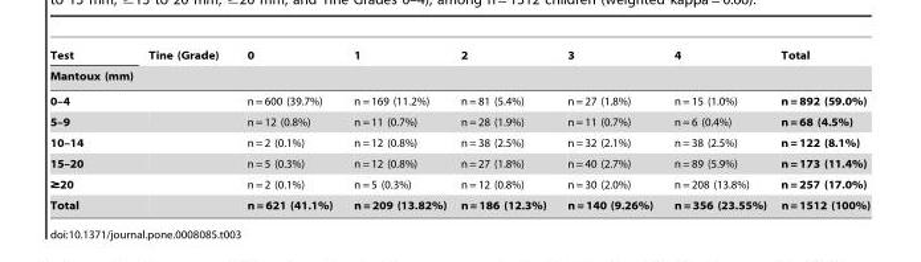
<table><thead><tr><td>Test</td><td>Tine (Grade)</td><td>0</td><td>1</td><td>2</td><td>3</td><td>4</td><td>Total</td></tr><tr><td colspan="8">Mantoux (mm)</td></tr></thead><tbody><tr><td>0–4</td><td></td><td>n = 600 (39.7%)</td><td>n = 169 (11.2%)</td><td>n = 81 (5.4%)</td><td>n = 27 (1.8%)</td><td>n = 15 (1.0%)</td><td>n = 892 (59.0%)</td></tr><tr><td>5–9</td><td></td><td>n = 12 (0.8%)</td><td>n = 11 (0.7%)</td><td>n = 28 (1.9%)</td><td>n = 11 (0.7%)</td><td>n = 6 (0.4%)</td><td>n = 68 (4.5%)</td></tr><tr><td>10–14</td><td></td><td>n = 2 (0.1%)</td><td>n = 12 (0.8%)</td><td>n = 38 (2.5%)</td><td>n = 32 (2.1%)</td><td>n = 38 (2.5%)</td><td>n = 122 (8.1%)</td></tr><tr><td>15–20</td><td></td><td>n = 5 (0.3%)</td><td>n = 12 (0.8%)</td><td>n = 27 (1.8%)</td><td>n = 40 (2.7%)</td><td>n = 89 (5.9%)</td><td>n = 173 (11.4%)</td></tr><tr><td>≥20</td><td></td><td>n = 2 (0.1%)</td><td>n = 5 (0.3%)</td><td>n = 12 (0.8%)</td><td>n = 30 (2.0%)</td><td>n = 208 (13.8%)</td><td>n = 257 (17.0%)</td></tr><tr><td>Total</td><td></td><td>n = 621 (41.1%)</td><td>n = 209 (13.82%)</td><td>n = 186 (12.3%)</td><td>n = 140 (9.26%)</td><td>n = 356 (23.55%)</td><td>n = 1512 (100%)</td></tr></tbody></table>